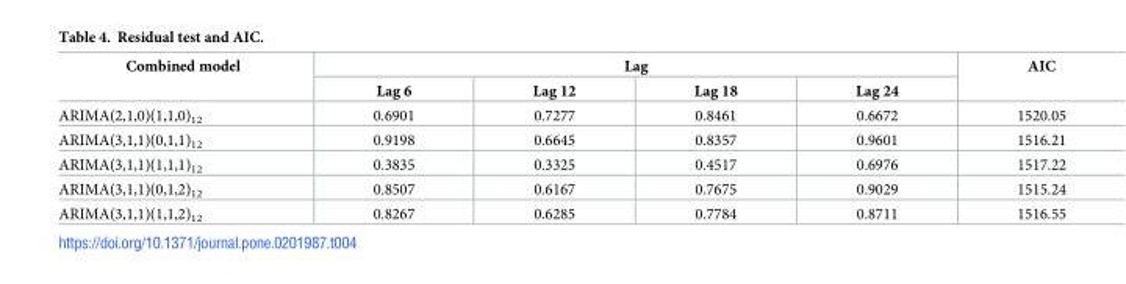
<table><thead><tr><td rowspan="2">Combined model</td><td colspan="4">Lag</td><td rowspan="2">AIC</td></tr><tr><td>Lag 6</td><td>Lag 12</td><td>Lag 18</td><td>Lag 24</td></tr></thead><tbody><tr><td>ARIMA(2,1,0)(1,1,0)<sub>12</sub></td><td>0.6901</td><td>0.7277</td><td>0.8461</td><td>0.6672</td><td>1520.05</td></tr><tr><td>ARIMA(3,1,1)(0,1,1)<sub>12</sub></td><td>0.9198</td><td>0.6645</td><td>0.8357</td><td>0.9601</td><td>1516.21</td></tr><tr><td>ARIMA(3,1,1)(1,1,1)<sub>12</sub></td><td>0.3835</td><td>0.3325</td><td>0.4517</td><td>0.6976</td><td>1517.22</td></tr><tr><td>ARIMA(3,1,1)(0,1,2)<sub>12</sub></td><td>0.8507</td><td>0.6167</td><td>0.7675</td><td>0.9029</td><td>1515.24</td></tr><tr><td>ARIMA(3,1,1)(1,1,2)<sub>12</sub></td><td>0.8267</td><td>0.6285</td><td>0.7784</td><td>0.8711</td><td>1516.55</td></tr></tbody></table>